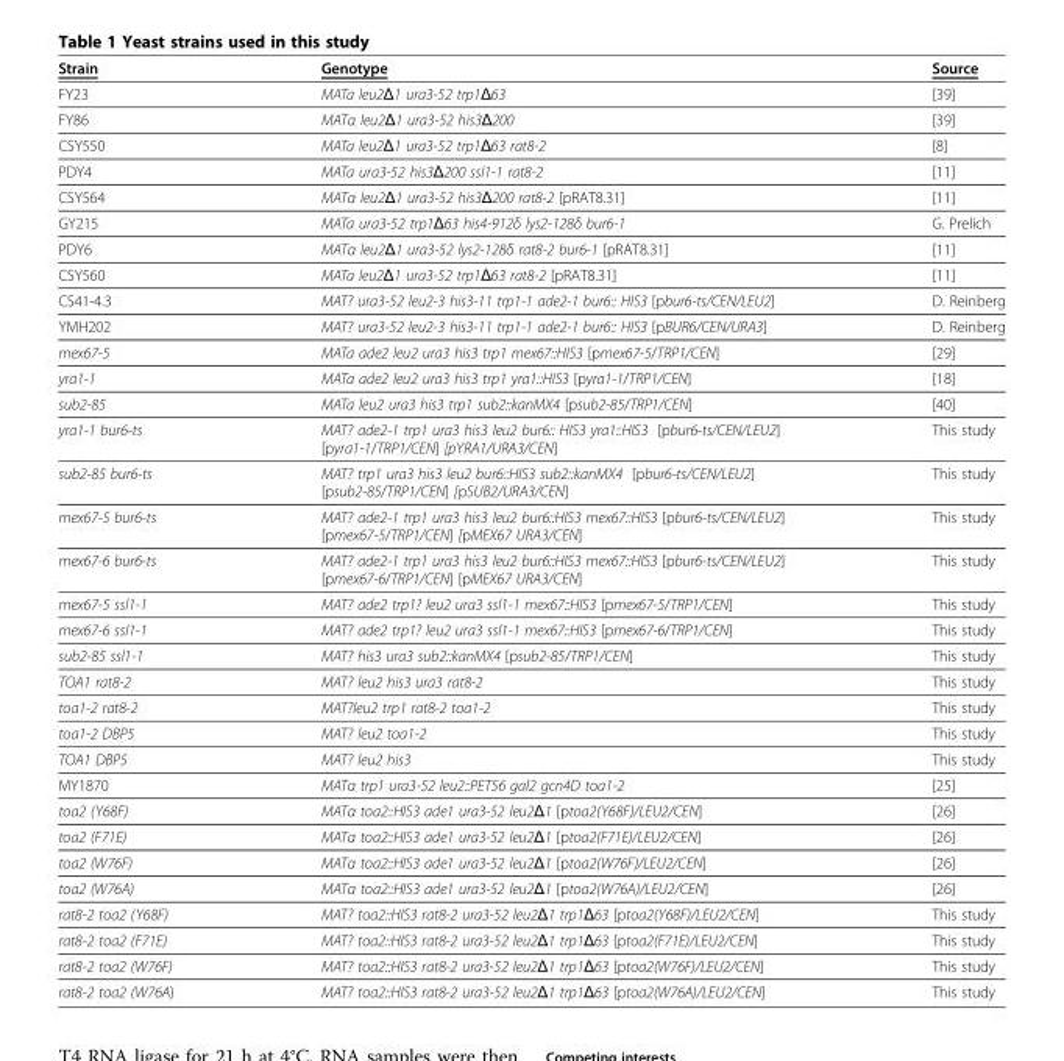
<table><thead><tr><td>Strain</td><td>Genotype</td><td>Source</td></tr></thead><tbody><tr><td>FY23</td><td>MATa leu2Δ1 ura3-52 trp1Δ63</td><td>[39]</td></tr><tr><td>FY86</td><td>MATα leu2Δ1 ura3-52 his3Δ200</td><td>[39]</td></tr><tr><td>CSY550</td><td>MATa leu2Δ1 ura3-52 trp1Δ63 rat8-2</td><td>[8]</td></tr><tr><td>PDY4</td><td>MATa ura3-52 his3Δ200 ssl1-1 rat8-2</td><td>[11]</td></tr><tr><td>CSY564</td><td>MATα leu2Δ1 ura3-52 his3Δ200 rat8-2 [pRAT8.31]</td><td>[11]</td></tr><tr><td>GY215</td><td>MATa ura3-52 trp1Δ63 his4-912δ lys2-128δ bur6-1</td><td>G. Prelich</td></tr><tr><td>PDY6</td><td>MATα leu2Δ1 ura3-52 lys2-128δ rat8-2 bur6-1 [pRAT8.31]</td><td>[11]</td></tr><tr><td>CSY560</td><td>MATa leu2Δ1 ura3-52 trp1Δ63 rat8-2 [pRAT8.31]</td><td>[11]</td></tr><tr><td>CS41-4.3</td><td>MAT? ura3-52 leu2-3 his3-11 trp1-1 ade2-1 bur6:: HIS3 [pbur6-ts/CEN/LEU2]</td><td>D. Reinberg</td></tr><tr><td>YMH202</td><td>MAT? ura3-52 leu2-3 his3-11 trp1-1 ade2-1 bur6:: HIS3 [pBUR6/CEN/URA3]</td><td>D. Reinberg</td></tr><tr><td>mex67-5</td><td>MATa ade2 leu2 ura3 his3 trp1 mex67::HIS3 [pmex67-5/TRP1/CEN]</td><td>[29]</td></tr><tr><td>yra1-1</td><td>MATa ade2 leu2 ura3 his3 trp1 yra1::HIS3 [pyra1-1/TRP1/CEN]</td><td>[18]</td></tr><tr><td>sub2-85</td><td>MATa leu2 ura3 his3 trp1 sub2::kanMX4 [psub2-85/TRP1/CEN]</td><td>[40]</td></tr><tr><td>yra1-1 bur6-ts</td><td>MAT? ade2-1 trp1 ura3 his3 leu2 bur6:: HIS3 yra1::HIS3 [pbur6-ts/CEN/LEU2] [pyra1-1/TRP1/CEN] [pYRA1/URA3/CEN]</td><td>This study</td></tr><tr><td>sub2-85 bur6-ts</td><td>MAT? trp1 ura3 his3 leu2 bur6::HIS3 sub2::kanMX4 [pbur6-ts/CEN/LEU2] [psub2-85/TRP1/CEN] [pSUB2/URA3/CEN]</td><td>This study</td></tr><tr><td>mex67-5 bur6-ts</td><td>MAT? ade2-1 trp1 ura3 his3 leu2 bur6::HIS3 mex67::HIS3 [pbur6-ts/CEN/LEU2] [pmex67-5/TRP1/CEN] [pMEX67 URA3/CEN]</td><td>This study</td></tr><tr><td>mex67-6 bur6-ts</td><td>MAT? ade2-1 trp1 ura3 his3 leu2 bur6::HIS3 mex67::HIS3 [pbur6-ts/CEN/LEU2] [pmex67-6/TRP1/CEN] [pMEX67 URA3/CEN]</td><td>This study</td></tr><tr><td>mex67-5 ssl1-1</td><td>MAT? ade2 trp1? leu2 ura3 ssl1-1 mex67::HIS3 [pmex67-5/TRP1/CEN]</td><td>This study</td></tr><tr><td>mex67-6 ssl1-1</td><td>MAT? ade2 trp1? leu2 ura3 ssl1-1 mex67::HIS3 [pmex67-6/TRP1/CEN]</td><td>This study</td></tr><tr><td>sub2-85 ssl1-1</td><td>MAT? his3 ura3 sub2::kanMX4 [psub2-85/TRP1/CEN]</td><td>This study</td></tr><tr><td>TOA1 rat8-2</td><td>MAT? leu2 his3 ura3 rat8-2</td><td>This study</td></tr><tr><td>toa1-2 rat8-2</td><td>MAT?leu2 trp1 rat8-2 toa1-2</td><td>This study</td></tr><tr><td>toa1-2 DBP5</td><td>MAT? leu2 toa1-2</td><td>This study</td></tr><tr><td>TOA1 DBP5</td><td>MAT? leu2 his3</td><td>This study</td></tr><tr><td>MY1870</td><td>MATα trp1 ura3-52 leu2::PET56 gal2 gcn4D toa1-2</td><td>[25]</td></tr><tr><td>toa2 (Y68F)</td><td>MATα toa2::HIS3 ade1 ura3-52 leu2Δ1 [ptoa2(Y68F)/LEU2/CEN]</td><td>[26]</td></tr><tr><td>toa2 (F71E)</td><td>MATα toa2::HIS3 ade1 ura3-52 leu2Δ1 [ptoa2(F71E)/LEU2/CEN]</td><td>[26]</td></tr><tr><td>toa2 (W76F)</td><td>MATα toa2::HIS3 ade1 ura3-52 leu2Δ1 [ptoa2(W76F)/LEU2/CEN]</td><td>[26]</td></tr><tr><td>toa2 (W76A)</td><td>MATα toa2::HIS3 ade1 ura3-52 leu2Δ1 [ptoa2(W76A)/LEU2/CEN]</td><td>[26]</td></tr><tr><td>rat8-2 toa2 (Y68F)</td><td>MAT? toa2::HIS3 rat8-2 ura3-52 leu2Δ1 trp1Δ63 [ptoa2(Y68F)/LEU2/CEN]</td><td>This study</td></tr><tr><td>rat8-2 toa2 (F71E)</td><td>MAT? toa2::HIS3 rat8-2 ura3-52 leu2Δ1 trp1Δ63 [ptoa2(F71E)/LEU2/CEN]</td><td>This study</td></tr><tr><td>rat8-2 toa2 (W76F)</td><td>MAT? toa2::HIS3 rat8-2 ura3-52 leu2Δ1 trp1Δ63 [ptoa2(W76F)/LEU2/CEN]</td><td>This study</td></tr><tr><td>rat8-2 toa2 (W76A)</td><td>MAT? toa2::HIS3 rat8-2 ura3-52 leu2Δ1 trp1Δ63 [ptoa2(W76A)/LEU2/CEN]</td><td>This study</td></tr></tbody></table>